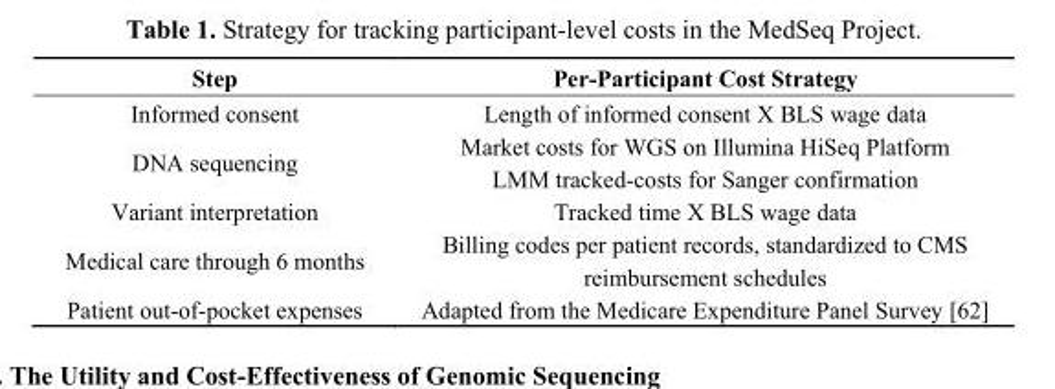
<table><thead><tr><td>Step</td><td>Per-Participant Cost Strategy</td></tr></thead><tbody><tr><td>Informed consent</td><td>Length of informed consent X BLS wage data</td></tr><tr><td>DNA sequencing</td><td>Market costs for WGS on Illumina HiSeq Platform LMM tracked-costs for Sanger confirmation</td></tr><tr><td>Variant interpretation</td><td>Tracked time X BLS wage data</td></tr><tr><td>Medical care through 6 months</td><td>Billing codes per patient records, standardized to CMS reimbursement schedules</td></tr><tr><td>Patient out-of-pocket expenses</td><td>Adapted from the Medicare Expenditure Panel Survey [62]</td></tr></tbody></table>